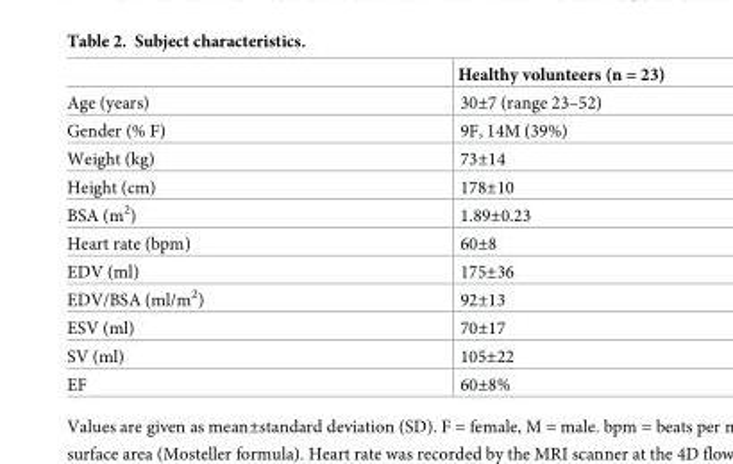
<table><thead><tr><td></td><td>Healthy volunteers (n = 23)</td></tr></thead><tbody><tr><td>Age (years)</td><td>30±7 (range 23–52)</td></tr><tr><td>Gender (% F)</td><td>9F, 14M (39%)</td></tr><tr><td>Weight (kg)</td><td>73±14</td></tr><tr><td>Height (cm)</td><td>178±10</td></tr><tr><td>BSA (m<sup>2</sup>)</td><td>1.89±0.23</td></tr><tr><td>Heart rate (bpm)</td><td>60±8</td></tr><tr><td>EDV (ml)</td><td>175±36</td></tr><tr><td>EDV/BSA (ml/m<sup>2</sup>)</td><td>92±13</td></tr><tr><td>ESV (ml)</td><td>70±17</td></tr><tr><td>SV (ml)</td><td>105±22</td></tr><tr><td>EF</td><td>60±8%</td></tr></tbody></table>